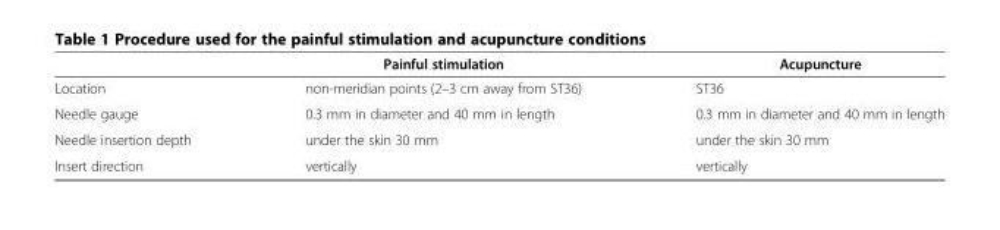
<table><thead><tr><td></td><td>Painful stimulation</td><td>Acupuncture</td></tr></thead><tbody><tr><td>Location</td><td>non-meridian points (2–3 cm away from ST36)</td><td>ST36</td></tr><tr><td>Needle gauge</td><td>0.3 mm in diameter and 40 mm in length</td><td>0.3 mm in diameter and 40 mm in length</td></tr><tr><td>Needle insertion depth</td><td>under the skin 30 mm</td><td>under the skin 30 mm</td></tr><tr><td>Insert direction</td><td>vertically</td><td>vertically</td></tr></tbody></table>